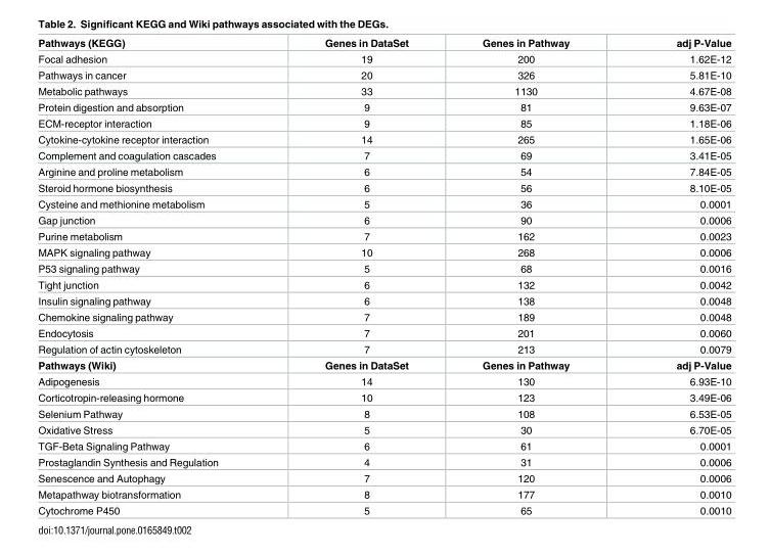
<table><tbody><tr><td>Pathways (KEGG)</td><td>Genes in DataSet</td><td>Genes in Pathway</td><td>adj P-Value</td></tr><tr><td>Focal adhesion</td><td>19</td><td>200</td><td>1.62E-12</td></tr><tr><td>Pathways in cancer</td><td>20</td><td>326</td><td>5.81E-10</td></tr><tr><td>Metabolic pathways</td><td>33</td><td>1130</td><td>4.67E-08</td></tr><tr><td>Protein digestion and absorption</td><td>9</td><td>81</td><td>9.63E-07</td></tr><tr><td>ECM-receptor interaction</td><td>9</td><td>85</td><td>1.18E-06</td></tr><tr><td>Cytokine-cytokine receptor interaction</td><td>14</td><td>265</td><td>1.65E-06</td></tr><tr><td>Complement and coagulation cascades</td><td>7</td><td>69</td><td>3.41E-05</td></tr><tr><td>Arginine and proline metabolism</td><td>6</td><td>54</td><td>7.84E-05</td></tr><tr><td>Steroid hormone biosynthesis</td><td>6</td><td>56</td><td>8.10E-05</td></tr><tr><td>Cysteine and methionine metabolism</td><td>5</td><td>36</td><td>0.0001</td></tr><tr><td>Gap junction</td><td>6</td><td>90</td><td>0.0006</td></tr><tr><td>Purine metabolism</td><td>7</td><td>162</td><td>0.0023</td></tr><tr><td>MAPK signaling pathway</td><td>10</td><td>268</td><td>0.0006</td></tr><tr><td>P53 signaling pathway</td><td>5</td><td>68</td><td>0.0016</td></tr><tr><td>Tight junction</td><td>6</td><td>132</td><td>0.0042</td></tr><tr><td>Insulin signaling pathway</td><td>6</td><td>138</td><td>0.0048</td></tr><tr><td>Chemokine signaling pathway</td><td>7</td><td>189</td><td>0.0048</td></tr><tr><td>Endocytosis</td><td>7</td><td>201</td><td>0.0060</td></tr><tr><td>Regulation of actin cytoskeleton</td><td>7</td><td>213</td><td>0.0079</td></tr><tr><td>Pathways (Wiki)</td><td>Genes in DataSet</td><td>Genes in Pathway</td><td>adj P-Value</td></tr><tr><td>Adipogenesis</td><td>14</td><td>130</td><td>6.93E-10</td></tr><tr><td>Corticotropin-releasing hormone</td><td>10</td><td>123</td><td>3.49E-06</td></tr><tr><td>Selenium Pathway</td><td>8</td><td>108</td><td>6.53E-05</td></tr><tr><td>Oxidative Stress</td><td>5</td><td>30</td><td>6.70E-05</td></tr><tr><td>TGF-Beta Signaling Pathway</td><td>6</td><td>61</td><td>0.0001</td></tr><tr><td>Prostaglandin Synthesis and Regulation</td><td>4</td><td>31</td><td>0.0006</td></tr><tr><td>Senescence and Autophagy</td><td>7</td><td>120</td><td>0.0006</td></tr><tr><td>Metapathway biotransformation</td><td>8</td><td>177</td><td>0.0010</td></tr><tr><td>Cytochrome P450</td><td>5</td><td>65</td><td>0.0010</td></tr></tbody></table>